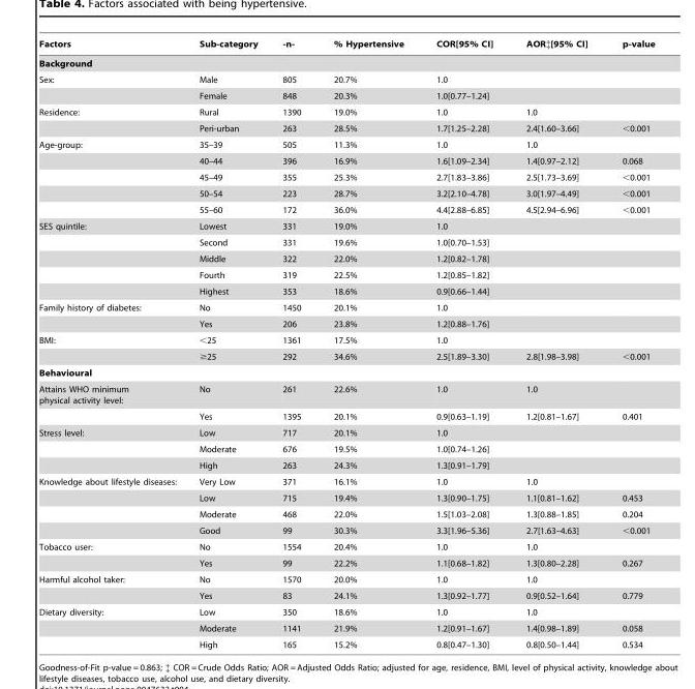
<table><thead><tr><td>Factors</td><td>Sub-category</td><td>-n-</td><td>% Hypertensive</td><td>COR[95% CI]</td><td>AOR‡[95% CI]</td><td>p-value</td></tr></thead><tbody><tr><td colspan="7">Background</td></tr><tr><td rowspan="2">Sex:</td><td>Male</td><td>805</td><td>20.7%</td><td>1.0</td><td></td><td></td></tr><tr><td>Female</td><td>848</td><td>20.3%</td><td>1.0[0.77–1.24]</td><td></td><td></td></tr><tr><td rowspan="2">Residence:</td><td>Rural</td><td>1390</td><td>19.0%</td><td>1.0</td><td>1.0</td><td></td></tr><tr><td>Peri-urban</td><td>263</td><td>28.5%</td><td>1.7[1.25–2.28]</td><td>2.4[1.60–3.66]</td><td>&lt;0.001</td></tr><tr><td rowspan="5">Age-group:</td><td>35–39</td><td>505</td><td>11.3%</td><td>1.0</td><td>1.0</td><td></td></tr><tr><td>40–44</td><td>396</td><td>16.9%</td><td>1.6[1.09–2.34]</td><td>1.4[0.97–2.12]</td><td>0.068</td></tr><tr><td>45–49</td><td>355</td><td>25.3%</td><td>2.7[1.83–3.86]</td><td>2.5[1.73–3.69]</td><td>&lt;0.001</td></tr><tr><td>50–54</td><td>223</td><td>28.7%</td><td>3.2[2.10–4.78]</td><td>3.0[1.97–4.49]</td><td>&lt;0.001</td></tr><tr><td>55–60</td><td>172</td><td>36.0%</td><td>4.4[2.88–6.85]</td><td>4.5[2.94–6.96]</td><td>&lt;0.001</td></tr><tr><td rowspan="5">SES quintile:</td><td>Lowest</td><td>331</td><td>19.0%</td><td>1.0</td><td></td><td></td></tr><tr><td>Second</td><td>331</td><td>19.6%</td><td>1.0[0.70–1.53]</td><td></td><td></td></tr><tr><td>Middle</td><td>322</td><td>22.0%</td><td>1.2[0.82–1.78]</td><td></td><td></td></tr><tr><td>Fourth</td><td>319</td><td>22.5%</td><td>1.2[0.85–1.82]</td><td></td><td></td></tr><tr><td>Highest</td><td>353</td><td>18.6%</td><td>0.9[0.66–1.44]</td><td></td><td></td></tr><tr><td rowspan="2">Family history of diabetes:</td><td>No</td><td>1450</td><td>20.1%</td><td>1.0</td><td></td><td></td></tr><tr><td>Yes</td><td>206</td><td>23.8%</td><td>1.2[0.88–1.76]</td><td></td><td></td></tr><tr><td rowspan="2">BMI:</td><td>&lt;25</td><td>1361</td><td>17.5%</td><td>1.0</td><td></td><td></td></tr><tr><td>≥25</td><td>292</td><td>34.6%</td><td>2.5[1.89–3.30]</td><td>2.8[1.98–3.98]</td><td>&lt;0.001</td></tr><tr><td colspan="7">Behavioural</td></tr><tr><td rowspan="2">Attains WHO minimum physical activity level:</td><td>No</td><td>261</td><td>22.6%</td><td>1.0</td><td>1.0</td><td></td></tr><tr><td>Yes</td><td>1395</td><td>20.1%</td><td>0.9[0.63–1.19]</td><td>1.2[0.81–1.67]</td><td>0.401</td></tr><tr><td rowspan="3">Stress level:</td><td>Low</td><td>717</td><td>20.1%</td><td>1.0</td><td></td><td></td></tr><tr><td>Moderate</td><td>676</td><td>19.5%</td><td>1.0[0.74–1.26]</td><td></td><td></td></tr><tr><td>High</td><td>263</td><td>24.3%</td><td>1.3[0.91–1.79]</td><td></td><td></td></tr><tr><td rowspan="4">Knowledge about lifestyle diseases:</td><td>Very Low</td><td>371</td><td>16.1%</td><td>1.0</td><td>1.0</td><td></td></tr><tr><td>Low</td><td>715</td><td>19.4%</td><td>1.3[0.90–1.75]</td><td>1.1[0.81–1.62]</td><td>0.453</td></tr><tr><td>Moderate</td><td>468</td><td>22.0%</td><td>1.5[1.03–2.08]</td><td>1.3[0.88–1.85]</td><td>0.204</td></tr><tr><td>Good</td><td>99</td><td>30.3%</td><td>3.3[1.96–5.36]</td><td>2.7[1.63–4.63]</td><td>&lt;0.001</td></tr><tr><td rowspan="2">Tobacco user:</td><td>No</td><td>1554</td><td>20.4%</td><td>1.0</td><td>1.0</td><td></td></tr><tr><td>Yes</td><td>99</td><td>22.2%</td><td>1.1[0.68–1.82]</td><td>1.3[0.80–2.28]</td><td>0.267</td></tr><tr><td rowspan="2">Harmful alcohol taker:</td><td>No</td><td>1570</td><td>20.0%</td><td>1.0</td><td>1.0</td><td></td></tr><tr><td>Yes</td><td>83</td><td>24.1%</td><td>1.3[0.92–1.77]</td><td>0.9[0.52–1.64]</td><td>0.779</td></tr><tr><td rowspan="3">Dietary diversity:</td><td>Low</td><td>350</td><td>18.6%</td><td>1.0</td><td>1.0</td><td></td></tr><tr><td>Moderate</td><td>1141</td><td>21.9%</td><td>1.2[0.91–1.67]</td><td>1.4[0.98–1.89]</td><td>0.058</td></tr><tr><td>High</td><td>165</td><td>15.2%</td><td>0.8[0.47–1.30]</td><td>0.8[0.50–1.44]</td><td>0.534</td></tr></tbody></table>